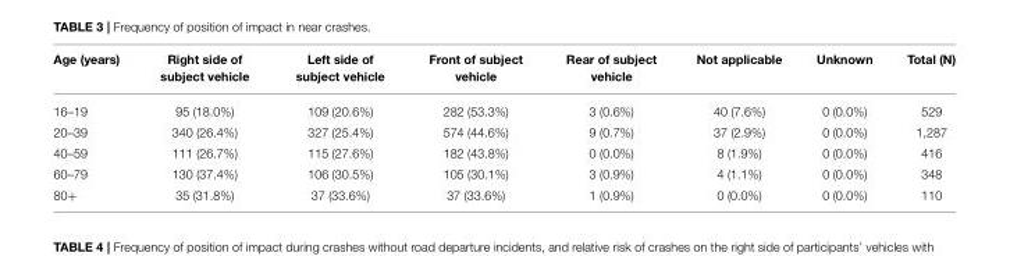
<table><thead><tr><td>Age (years)</td><td>Right side of subject vehicle</td><td>Left side of subject vehicle</td><td>Front of subject vehicle</td><td>Rear of subject vehicle</td><td>Not applicable</td><td>Unknown</td><td>Total (N)</td></tr></thead><tbody><tr><td>16–19</td><td>95 (18.0%)</td><td>109 (20.6%)</td><td>282 (53.3%)</td><td>3 (0.6%)</td><td>40 (7.6%)</td><td>0 (0.0%)</td><td>529</td></tr><tr><td>20–39</td><td>340 (26.4%)</td><td>327 (25.4%)</td><td>574 (44.6%)</td><td>9 (0.7%)</td><td>37 (2.9%)</td><td>0 (0.0%)</td><td>1,287</td></tr><tr><td>40–59</td><td>111 (26.7%)</td><td>115 (27.6%)</td><td>182 (43.8%)</td><td>0 (0.0%)</td><td>8 (1.9%)</td><td>0 (0.0%)</td><td>416</td></tr><tr><td>60–79</td><td>130 (37.4%)</td><td>106 (30.5%)</td><td>105 (30.1%)</td><td>3 (0.9%)</td><td>4 (1.1%)</td><td>0 (0.0%)</td><td>348</td></tr><tr><td>80+</td><td>35 (31.8%)</td><td>37 (33.6%)</td><td>37 (33.6%)</td><td>1 (0.9%)</td><td>0 (0.0%)</td><td>0 (0.0%)</td><td>110</td></tr></tbody></table>